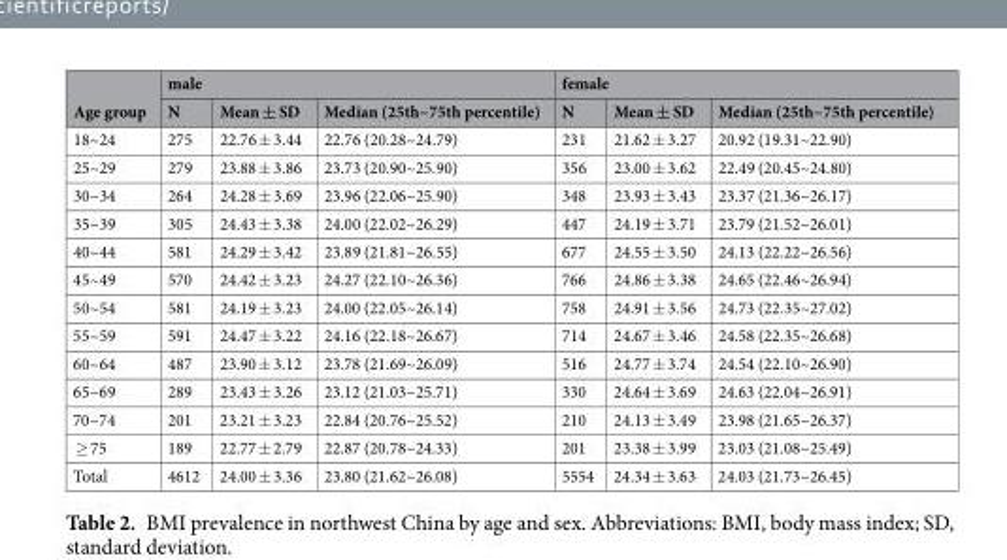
<table><thead><tr><td rowspan="2">Age group</td><td colspan="3">male</td><td colspan="3">female</td></tr><tr><td>N</td><td>Mean ± SD</td><td>Median (25th~75th percentile)</td><td>N</td><td>Mean ± SD</td><td>Median (25th~75th percentile)</td></tr></thead><tbody><tr><td>18~24</td><td>275</td><td>22.76 ± 3.44</td><td>22.76 (20.28~24.79)</td><td>231</td><td>21.62 ± 3.27</td><td>20.92 (19.31~22.90)</td></tr><tr><td>25~29</td><td>279</td><td>23.88 ± 3.86</td><td>23.73 (20.90~25.90)</td><td>356</td><td>23.00 ± 3.62</td><td>22.49 (20.45~24.80)</td></tr><tr><td>30~34</td><td>264</td><td>24.28 ± 3.69</td><td>23.96 (22.06~25.90)</td><td>348</td><td>23.93 ± 3.43</td><td>23.37 (21.36~26.17)</td></tr><tr><td>35~39</td><td>305</td><td>24.43 ± 3.38</td><td>24.00 (22.02~26.29)</td><td>447</td><td>24.19 ± 3.71</td><td>23.79 (21.52~26.01)</td></tr><tr><td>40~44</td><td>581</td><td>24.29 ± 3.42</td><td>23.89 (21.81~26.55)</td><td>677</td><td>24.55 ± 3.50</td><td>24.13 (22.22~26.56)</td></tr><tr><td>45~49</td><td>570</td><td>24.42 ± 3.23</td><td>24.27 (22.10~26.36)</td><td>766</td><td>24.86 ± 3.38</td><td>24.65 (22.46~26.94)</td></tr><tr><td>50~54</td><td>581</td><td>24.19 ± 3.23</td><td>24.00 (22.05~26.14)</td><td>758</td><td>24.91 ± 3.56</td><td>24.73 (22.35~27.02)</td></tr><tr><td>55~59</td><td>591</td><td>24.47 ± 3.22</td><td>24.16 (22.18~26.67)</td><td>714</td><td>24.67 ± 3.46</td><td>24.58 (22.35~26.68)</td></tr><tr><td>60~64</td><td>487</td><td>23.90 ± 3.12</td><td>23.78 (21.69~26.09)</td><td>516</td><td>24.77 ± 3.74</td><td>24.54 (22.10~26.90)</td></tr><tr><td>65~69</td><td>289</td><td>23.43 ± 3.26</td><td>23.12 (21.03~25.71)</td><td>330</td><td>24.64 ± 3.69</td><td>24.63 (22.04~26.91)</td></tr><tr><td>70~74</td><td>201</td><td>23.21 ± 3.23</td><td>22.84 (20.76~25.52)</td><td>210</td><td>24.13 ± 3.49</td><td>23.98 (21.65~26.37)</td></tr><tr><td>≥ 75</td><td>189</td><td>22.77 ± 2.79</td><td>22.87 (20.78~24.33)</td><td>201</td><td>23.38 ± 3.99</td><td>23.03 (21.08~25.49)</td></tr><tr><td>Total</td><td>4612</td><td>24.00 ± 3.36</td><td>23.80 (21.62~26.08)</td><td>5554</td><td>24.34 ± 3.63</td><td>24.03 (21.73~26.45)</td></tr></tbody></table>